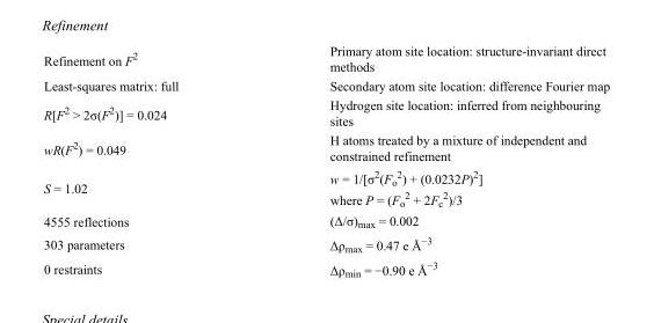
<table><tbody><tr><td>Refinement on F<sup>2</sup></td><td>Primary atom site location: structure-invariant direct methods</td></tr><tr><td>Least-squares matrix: full</td><td>Secondary atom site location: difference Fourier map</td></tr><tr><td>R[F<sup>2</sup> &gt; 2σ(F<sup>2</sup>)] = 0.024</td><td>Hydrogen site location: inferred from neighbouring sites</td></tr><tr><td>wR(F<sup>2</sup>) = 0.049</td><td>H atoms treated by a mixture of independent and constrained refinement</td></tr><tr><td>S = 1.02</td><td>w = 1/[σ<sup>2</sup>(F<sub>o</sub> <sup>2</sup>) + (0.0232P)<sup>2</sup>] where P = (F<sub>o</sub> <sup>2</sup> + 2F<sub>c</sub> <sup>2</sup>)/3</td></tr><tr><td>4555 reflections</td><td>(Δ/σ)<sub>max</sub> = 0.002</td></tr><tr><td>303 parameters</td><td>Δρ<sub>max</sub> = 0.47 e Å<sup>−3</sup></td></tr><tr><td>0 restraints</td><td>Δρ<sub>min</sub> = −0.90 e Å<sup>−3</sup></td></tr></tbody></table>